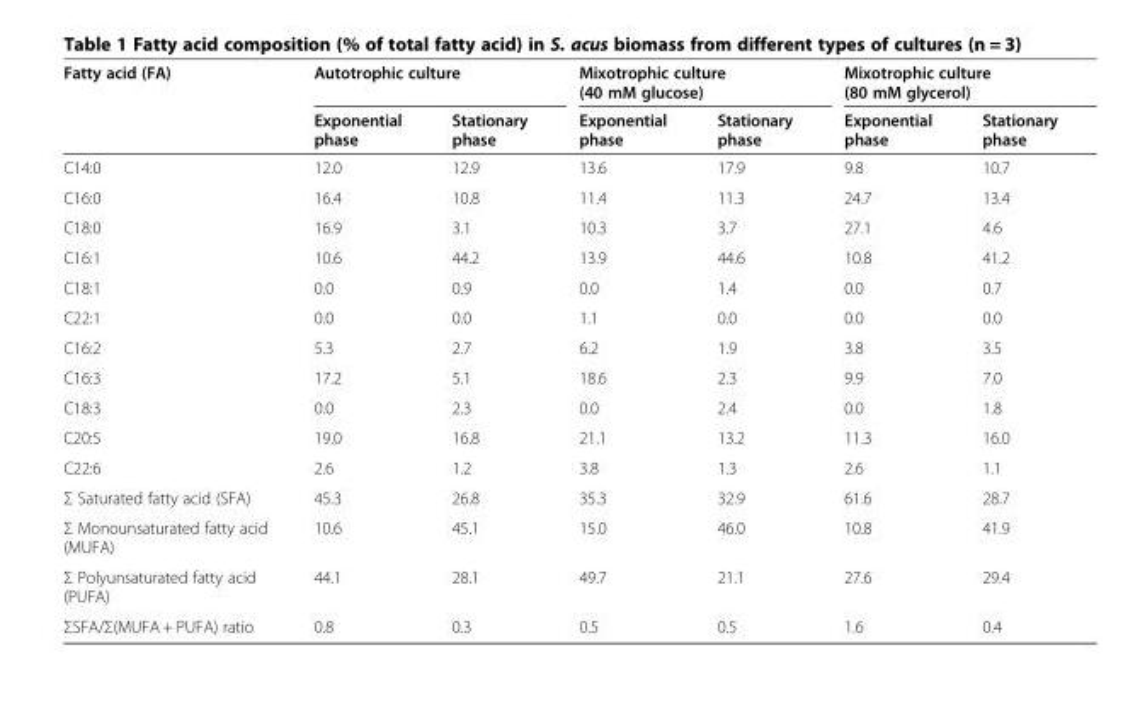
<table><thead><tr><td rowspan="2">Fatty acid (FA)</td><td colspan="2">Autotrophic culture</td><td colspan="2">Mixotrophic culture (40 mM glucose)</td><td colspan="2">Mixotrophic culture (80 mM glycerol)</td></tr><tr><td>Exponential phase</td><td>Stationary phase</td><td>Exponential phase</td><td>Stationary phase</td><td>Exponential phase</td><td>Stationary phase</td></tr></thead><tbody><tr><td>С14:0</td><td>12.0</td><td>12.9</td><td>13.6</td><td>17.9</td><td>9.8</td><td>10.7</td></tr><tr><td>С16:0</td><td>16.4</td><td>10.8</td><td>11.4</td><td>11.3</td><td>24.7</td><td>13.4</td></tr><tr><td>С18:0</td><td>16.9</td><td>3.1</td><td>10.3</td><td>3.7</td><td>27.1</td><td>4.6</td></tr><tr><td>С16:1</td><td>10.6</td><td>44.2</td><td>13.9</td><td>44.6</td><td>10.8</td><td>41.2</td></tr><tr><td>С18:1</td><td>0.0</td><td>0.9</td><td>0.0</td><td>1.4</td><td>0.0</td><td>0.7</td></tr><tr><td>С22:1</td><td>0.0</td><td>0.0</td><td>1.1</td><td>0.0</td><td>0.0</td><td>0.0</td></tr><tr><td>С16:2</td><td>5.3</td><td>2.7</td><td>6.2</td><td>1.9</td><td>3.8</td><td>3.5</td></tr><tr><td>С16:3</td><td>17.2</td><td>5.1</td><td>18.6</td><td>2.3</td><td>9.9</td><td>7.0</td></tr><tr><td>С18:3</td><td>0.0</td><td>2.3</td><td>0.0</td><td>2.4</td><td>0.0</td><td>1.8</td></tr><tr><td>С20:5</td><td>19.0</td><td>16.8</td><td>21.1</td><td>13.2</td><td>11.3</td><td>16.0</td></tr><tr><td>С22:6</td><td>2.6</td><td>1.2</td><td>3.8</td><td>1.3</td><td>2.6</td><td>1.1</td></tr><tr><td>Σ Saturated fatty acid (SFA)</td><td>45.3</td><td>26.8</td><td>35.3</td><td>32.9</td><td>61.6</td><td>28.7</td></tr><tr><td>Σ Monounsaturated fatty acid (MUFA)</td><td>10.6</td><td>45.1</td><td>15.0</td><td>46.0</td><td>10.8</td><td>41.9</td></tr><tr><td>Σ Polyunsaturated fatty acid (PUFA)</td><td>44.1</td><td>28.1</td><td>49.7</td><td>21.1</td><td>27.6</td><td>29.4</td></tr><tr><td>ΣSFA/Σ(MUFA + PUFA) ratio</td><td>0.8</td><td>0.3</td><td>0.5</td><td>0.5</td><td>1.6</td><td>0.4</td></tr></tbody></table>